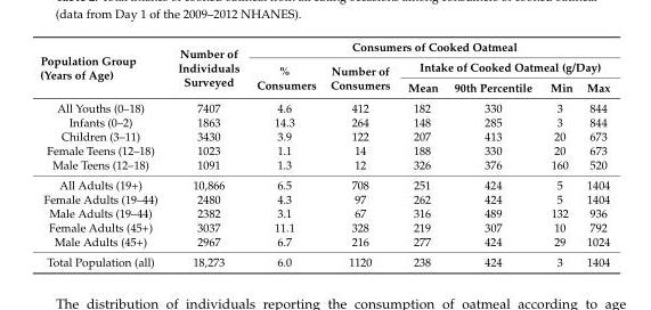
<table><thead><tr><td rowspan="3">Population Group (Years of Age)</td><td rowspan="3">Number of Individuals Surveyed</td><td colspan="6">Consumers of Cooked Oatmeal</td></tr><tr><td rowspan="2">% Consumers</td><td rowspan="2">Number of Consumers</td><td colspan="4">Intake of Cooked Oatmeal (g/Day)</td></tr><tr><td>Mean</td><td>90th Percentile</td><td>Min</td><td>Max</td></tr></thead><tbody><tr><td>All Youths (0–18)</td><td>7407</td><td>4.6</td><td>412</td><td>182</td><td>330</td><td>3</td><td>844</td></tr><tr><td>Infants (0–2)</td><td>1863</td><td>14.3</td><td>264</td><td>148</td><td>285</td><td>3</td><td>844</td></tr><tr><td>Children (3–11)</td><td>3430</td><td>3.9</td><td>122</td><td>207</td><td>413</td><td>20</td><td>673</td></tr><tr><td>Female Teens (12–18)</td><td>1023</td><td>1.1</td><td>14</td><td>188</td><td>330</td><td>20</td><td>673</td></tr><tr><td>Male Teens (12–18)</td><td>1091</td><td>1.3</td><td>12</td><td>326</td><td>376</td><td>160</td><td>520</td></tr><tr><td>All Adults (19+)</td><td>10,866</td><td>6.5</td><td>708</td><td>251</td><td>424</td><td>5</td><td>1404</td></tr><tr><td>Female Adults (19–44)</td><td>2480</td><td>4.3</td><td>97</td><td>262</td><td>424</td><td>5</td><td>1404</td></tr><tr><td>Male Adults (19–44)</td><td>2382</td><td>3.1</td><td>67</td><td>316</td><td>489</td><td>132</td><td>936</td></tr><tr><td>Female Adults (45+)</td><td>3037</td><td>11.1</td><td>328</td><td>219</td><td>307</td><td>10</td><td>792</td></tr><tr><td>Male Adults (45+)</td><td>2967</td><td>6.7</td><td>216</td><td>277</td><td>424</td><td>29</td><td>1024</td></tr><tr><td>Total Population (all)</td><td>18,273</td><td>6.0</td><td>1120</td><td>238</td><td>424</td><td>3</td><td>1404</td></tr></tbody></table>